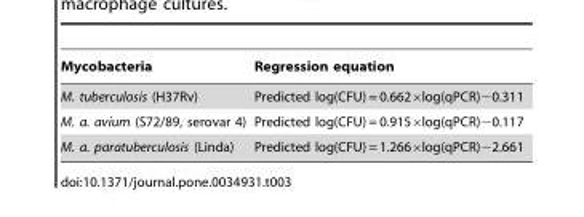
<table><thead><tr><td>Mycobacteria</td><td>Regression equation</td></tr></thead><tbody><tr><td>M. tuberculosis (H37Rv)</td><td>Predicted log(CFU) = 0.662×log(qPCR)−0.311</td></tr><tr><td>M. a. avium (S72/89, serovar 4)</td><td>Predicted log(CFU) = 0.915×log(qPCR)−0.117</td></tr><tr><td>M. a. paratuberculosis (Linda)</td><td>Predicted log(CFU) = 1.266×log(qPCR)−2.661</td></tr></tbody></table>